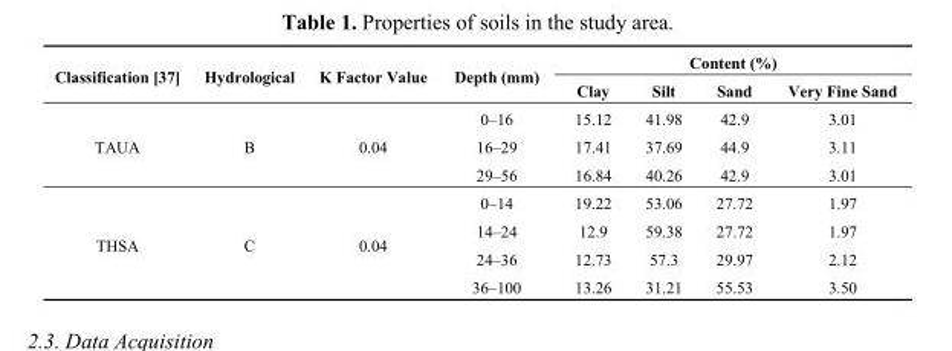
<table><thead><tr><td rowspan="2">Classification [37]</td><td rowspan="2">Hydrological</td><td rowspan="2">K Factor Value</td><td rowspan="2">Depth (mm)</td><td colspan="4">Content (%)</td></tr><tr><td>Clay</td><td>Silt</td><td>Sand</td><td>Very Fine Sand</td></tr></thead><tbody><tr><td rowspan="3">TAUA</td><td rowspan="3">B</td><td rowspan="3">0.04</td><td>0–16</td><td>15.12</td><td>41.98</td><td>42.9</td><td>3.01</td></tr><tr><td>16–29</td><td>17.41</td><td>37.69</td><td>44.9</td><td>3.11</td></tr><tr><td>29–56</td><td>16.84</td><td>40.26</td><td>42.9</td><td>3.01</td></tr><tr><td rowspan="4">THSA</td><td rowspan="4">C</td><td rowspan="4">0.04</td><td>0–14</td><td>19.22</td><td>53.06</td><td>27.72</td><td>1.97</td></tr><tr><td>14–24</td><td>12.9</td><td>59.38</td><td>27.72</td><td>1.97</td></tr><tr><td>24–36</td><td>12.73</td><td>57.3</td><td>29.97</td><td>2.12</td></tr><tr><td>36–100</td><td>13.26</td><td>31.21</td><td>55.53</td><td>3.50</td></tr></tbody></table>